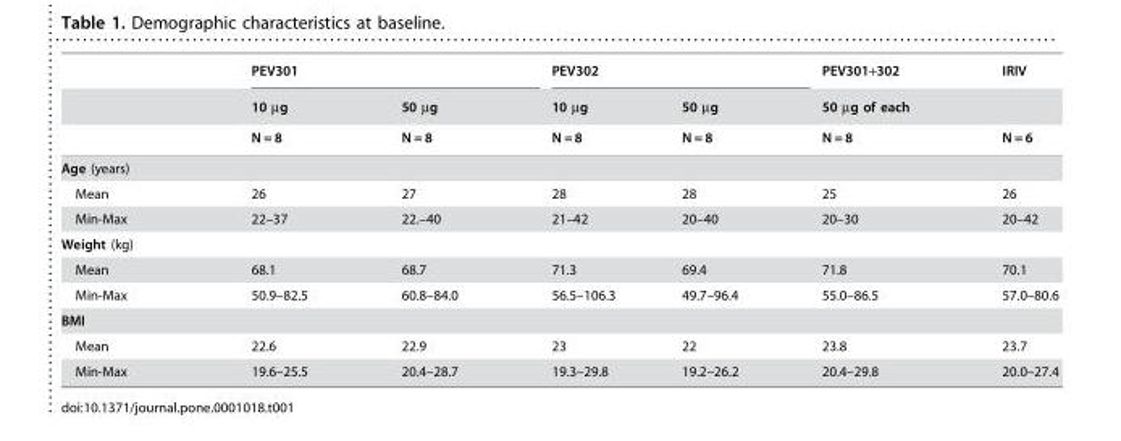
<table><thead><tr><td rowspan="3"></td><td colspan="2">PEV301</td><td colspan="2">PEV302</td><td rowspan="3">PEV301+302 50 µg of each N = 8</td><td rowspan="3">IRIV N = 6</td></tr><tr><td rowspan="2">10 µg N = 8</td><td rowspan="2">50 µg N = 8</td><td rowspan="2">10 µg N = 8</td><td rowspan="2">50 µg N = 8</td></tr><tr></tr></thead><tbody><tr><td colspan="7">Age (years)</td></tr><tr><td>Mean</td><td>26</td><td>27</td><td>28</td><td>28</td><td>25</td><td>26</td></tr><tr><td>Min-Max</td><td>22–37</td><td>22.–40</td><td>21–42</td><td>20–40</td><td>20–30</td><td>20–42</td></tr><tr><td colspan="7">Weight (kg)</td></tr><tr><td>Mean</td><td>68.1</td><td>68.7</td><td>71.3</td><td>69.4</td><td>71.8</td><td>70.1</td></tr><tr><td>Min-Max</td><td>50.9–82.5</td><td>60.8–84.0</td><td>56.5–106.3</td><td>49.7–96.4</td><td>55.0–86.5</td><td>57.0–80.6</td></tr><tr><td colspan="7">BMI</td></tr><tr><td>Mean</td><td>22.6</td><td>22.9</td><td>23</td><td>22</td><td>23.8</td><td>23.7</td></tr><tr><td>Min-Max</td><td>19.6–25.5</td><td>20.4–28.7</td><td>19.3–29.8</td><td>19.2–26.2</td><td>20.4–29.8</td><td>20.0–27.4</td></tr></tbody></table>